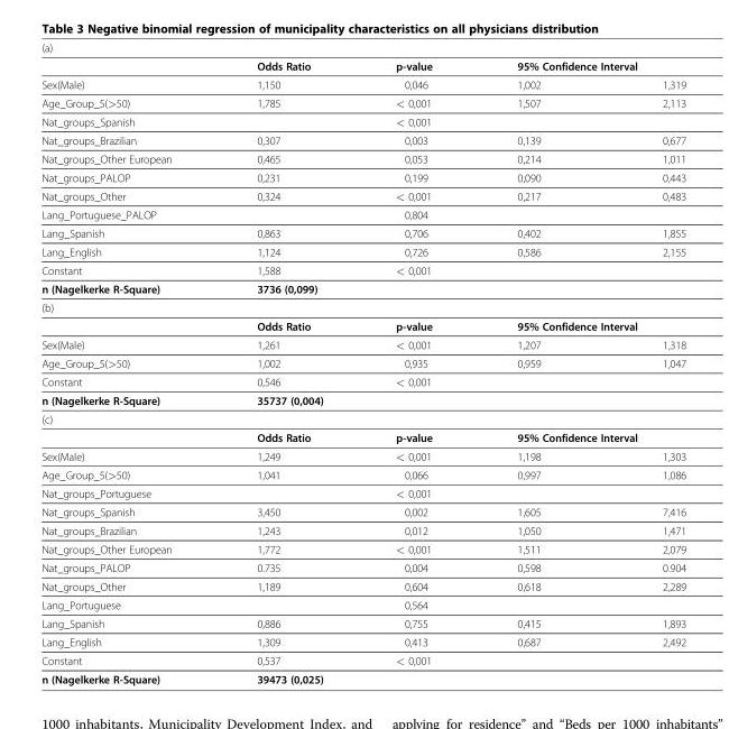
<table><thead><tr><td>(a)</td><td></td><td></td><td></td><td></td></tr></thead><tbody><tr><td></td><td>Odds Ratio</td><td>p-value</td><td colspan="2">95% Confidence Interval</td></tr><tr><td>Sex(Male)</td><td>1,150</td><td>0,046</td><td>1,002</td><td>1,319</td></tr><tr><td>Age_Group_5(&gt;50)</td><td>1,785</td><td>&lt; 0,001</td><td>1,507</td><td>2,113</td></tr><tr><td>Nat_groups_Spanish</td><td></td><td>&lt; 0,001</td><td></td><td></td></tr><tr><td>Nat_groups_Brazilian</td><td>0,307</td><td>0,003</td><td>0,139</td><td>0,677</td></tr><tr><td>Nat_groups_Other European</td><td>0,465</td><td>0,053</td><td>0,214</td><td>1,011</td></tr><tr><td>Nat_groups_PALOP</td><td>0,231</td><td>0,199</td><td>0,090</td><td>0,443</td></tr><tr><td>Nat_groups_Other</td><td>0,324</td><td>&lt; 0,001</td><td>0,217</td><td>0,483</td></tr><tr><td>Lang_Portuguese_PALOP</td><td></td><td>0,804</td><td></td><td></td></tr><tr><td>Lang_Spanish</td><td>0,863</td><td>0,706</td><td>0,402</td><td>1,855</td></tr><tr><td>Lang_English</td><td>1,124</td><td>0,726</td><td>0,586</td><td>2,155</td></tr><tr><td>Constant</td><td>1,588</td><td>&lt; 0,001</td><td></td><td></td></tr><tr><td>n (Nagelkerke R-Square)</td><td colspan="4">3736 (0,099)</td></tr><tr><td colspan="5">(b)</td></tr><tr><td></td><td>Odds Ratio</td><td>p-value</td><td colspan="2">95% Confidence Interval</td></tr><tr><td>Sex(Male)</td><td>1,261</td><td>&lt; 0,001</td><td>1,207</td><td>1,318</td></tr><tr><td>Age_Group_5(&gt;50)</td><td>1,002</td><td>0,935</td><td>0,959</td><td>1,047</td></tr><tr><td>Constant</td><td>0,546</td><td>&lt; 0,001</td><td></td><td></td></tr><tr><td>n (Nagelkerke R-Square)</td><td colspan="4">35737 (0,004)</td></tr><tr><td colspan="5">(c)</td></tr><tr><td></td><td>Odds Ratio</td><td>p-value</td><td colspan="2">95% Confidence Interval</td></tr><tr><td>Sex(Male)</td><td>1,249</td><td>&lt; 0,001</td><td>1,198</td><td>1,303</td></tr><tr><td>Age_Group_5(&gt;50)</td><td>1,041</td><td>0,066</td><td>0,997</td><td>1,086</td></tr><tr><td>Nat_groups_Portuguese</td><td></td><td>&lt; 0,001</td><td></td><td></td></tr><tr><td>Nat_groups_Spanish</td><td>3,450</td><td>0,002</td><td>1,605</td><td>7,416</td></tr><tr><td>Nat_groups_Brazilian</td><td>1,243</td><td>0,012</td><td>1,050</td><td>1,471</td></tr><tr><td>Nat_groups_Other European</td><td>1,772</td><td>&lt; 0,001</td><td>1,511</td><td>2,079</td></tr><tr><td>Nat_groups_PALOP</td><td>0.735</td><td>0,004</td><td>0,598</td><td>0.904</td></tr><tr><td>Nat_groups_Other</td><td>1,189</td><td>0,604</td><td>0,618</td><td>2,289</td></tr><tr><td>Lang_Portuguese</td><td></td><td>0,564</td><td></td><td></td></tr><tr><td>Lang_Spanish</td><td>0,886</td><td>0,755</td><td>0,415</td><td>1,893</td></tr><tr><td>Lang_English</td><td>1,309</td><td>0,413</td><td>0,687</td><td>2,492</td></tr><tr><td>Constant</td><td>0,537</td><td>&lt; 0,001</td><td></td><td></td></tr><tr><td>n (Nagelkerke R-Square)</td><td colspan="4">39473 (0,025)</td></tr></tbody></table>